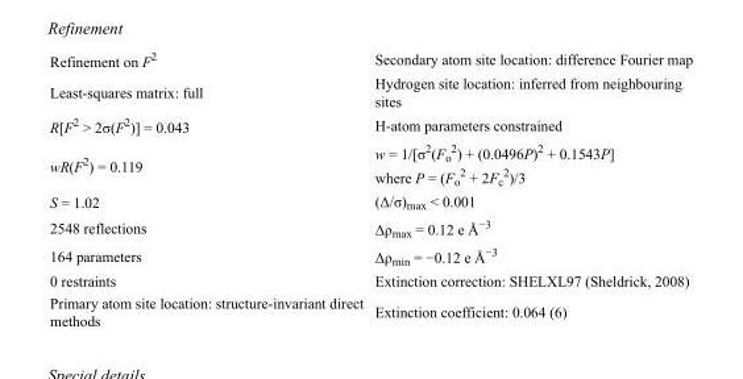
<table><tbody><tr><td>Refinement on F<sup>2</sup></td><td>Secondary atom site location: difference Fourier map</td></tr><tr><td>Least-squares matrix: full</td><td>Hydrogen site location: inferred from neighbouring sites</td></tr><tr><td>R[F<sup>2</sup> &gt; 2σ(F<sup>2</sup>)] = 0.043</td><td>H-atom parameters constrained</td></tr><tr><td>wR(F<sup>2</sup>) = 0.119</td><td>w = 1/[σ<sup>2</sup>(F<sub>o</sub> <sup>2</sup>) + (0.0496P)<sup>2</sup> + 0.1543P] where P = (F<sub>o</sub> <sup>2</sup> + 2F<sub>c</sub> <sup>2</sup>)/3</td></tr><tr><td>S = 1.02</td><td>(Δ/σ)<sub>max</sub> &lt; 0.001</td></tr><tr><td>2548 reflections</td><td>Δρ<sub>max</sub> = 0.12 e Å<sup>−3</sup></td></tr><tr><td>164 parameters</td><td>Δρ<sub>min</sub> = −0.12 e Å<sup>−3</sup></td></tr><tr><td>0 restraints</td><td>Extinction correction: SHELXL97 (Sheldrick, 2008)</td></tr><tr><td>Primary atom site location: structure-invariant direct methods</td><td>Extinction coefficient: 0.064 (6)</td></tr></tbody></table>